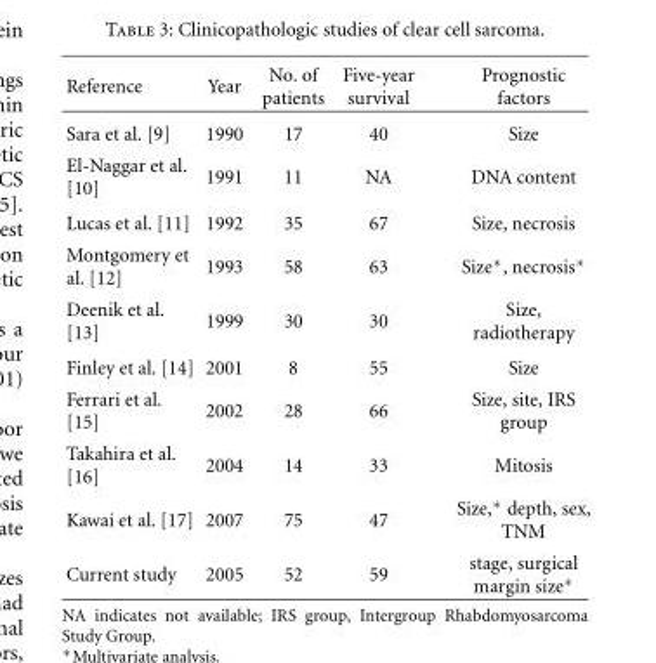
<table><thead><tr><td>Reference</td><td>Year</td><td>No. of patients</td><td>Five-year survival</td><td>Prognostic factors</td></tr></thead><tbody><tr><td>Sara et al. [9]</td><td>1990</td><td>17</td><td>40</td><td>Size</td></tr><tr><td>El-Naggar et al. [10]</td><td>1991</td><td>11</td><td>NA</td><td>DNA content</td></tr><tr><td>Lucas et al. [11]</td><td>1992</td><td>35</td><td>67</td><td>Size, necrosis</td></tr><tr><td>Montgomery et al. [12]</td><td>1993</td><td>58</td><td>63</td><td>Size∗, necrosis∗</td></tr><tr><td>Deenik et al. [13]</td><td>1999</td><td>30</td><td>30</td><td>Size, radiotherapy</td></tr><tr><td>Finley et al. [14]</td><td>2001</td><td>8</td><td>55</td><td>Size</td></tr><tr><td>Ferrari et al. [15]</td><td>2002</td><td>28</td><td>66</td><td>Size, site, IRS group</td></tr><tr><td>Takahira et al. [16]</td><td>2004</td><td>14</td><td>33</td><td>Mitosis</td></tr><tr><td>Kawai et al. [17]</td><td>2007</td><td>75</td><td>47</td><td>Size,∗ depth, sex, TNM</td></tr><tr><td>Current study</td><td>2005</td><td>52</td><td>59</td><td>stage, surgical margin size∗</td></tr></tbody></table>